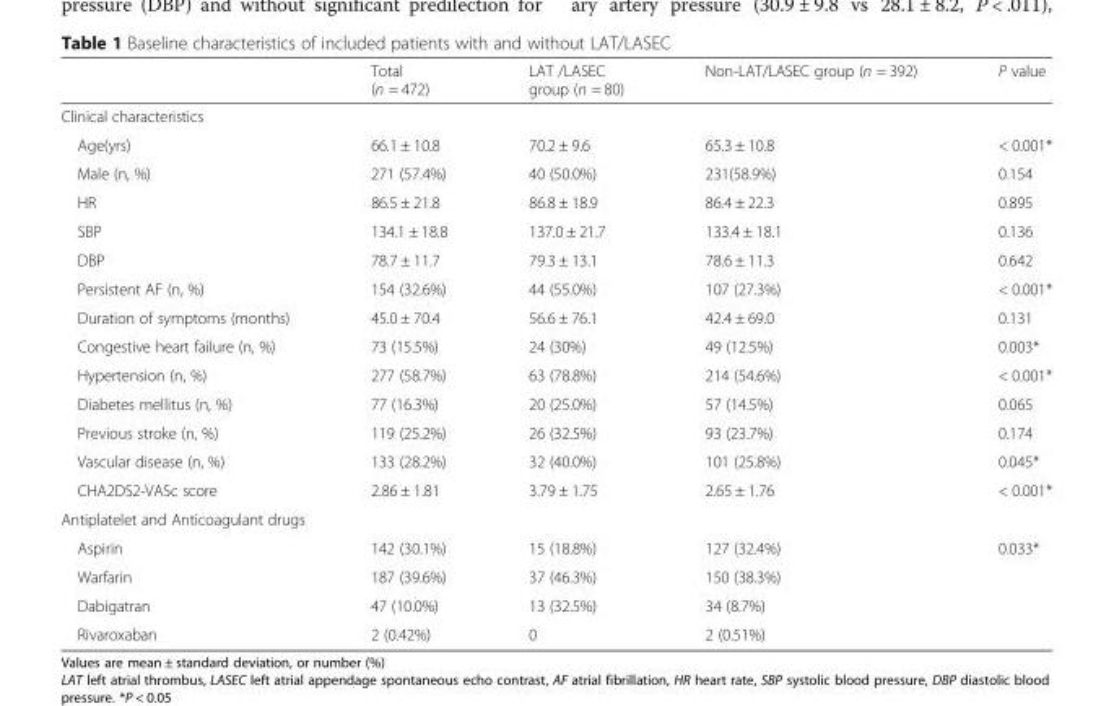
<table><thead><tr><td></td><td>Total (n = 472)</td><td>LAT /LASEC group (n = 80)</td><td>Non-LAT/LASEC group (n = 392)</td><td>P value</td></tr></thead><tbody><tr><td colspan="5">Clinical characteristics</td></tr><tr><td>Age(yrs)</td><td>66.1 ± 10.8</td><td>70.2 ± 9.6</td><td>65.3 ± 10.8</td><td>&lt; 0.001*</td></tr><tr><td>Male (n, %)</td><td>271 (57.4%)</td><td>40 (50.0%)</td><td>231(58.9%)</td><td>0.154</td></tr><tr><td>HR</td><td>86.5 ± 21.8</td><td>86.8 ± 18.9</td><td>86.4 ± 22.3</td><td>0.895</td></tr><tr><td>SBP</td><td>134.1 ± 18.8</td><td>137.0 ± 21.7</td><td>133.4 ± 18.1</td><td>0.136</td></tr><tr><td>DBP</td><td>78.7 ± 11.7</td><td>79.3 ± 13.1</td><td>78.6 ± 11.3</td><td>0.642</td></tr><tr><td>Persistent AF (n, %)</td><td>154 (32.6%)</td><td>44 (55.0%)</td><td>107 (27.3%)</td><td>&lt; 0.001*</td></tr><tr><td>Duration of symptoms (months)</td><td>45.0 ± 70.4</td><td>56.6 ± 76.1</td><td>42.4 ± 69.0</td><td>0.131</td></tr><tr><td>Congestive heart failure (n, %)</td><td>73 (15.5%)</td><td>24 (30%)</td><td>49 (12.5%)</td><td>0.003*</td></tr><tr><td>Hypertension (n, %)</td><td>277 (58.7%)</td><td>63 (78.8%)</td><td>214 (54.6%)</td><td>&lt; 0.001*</td></tr><tr><td>Diabetes mellitus (n, %)</td><td>77 (16.3%)</td><td>20 (25.0%)</td><td>57 (14.5%)</td><td>0.065</td></tr><tr><td>Previous stroke (n, %)</td><td>119 (25.2%)</td><td>26 (32.5%)</td><td>93 (23.7%)</td><td>0.174</td></tr><tr><td>Vascular disease (n, %)</td><td>133 (28.2%)</td><td>32 (40.0%)</td><td>101 (25.8%)</td><td>0.045*</td></tr><tr><td>CHA2DS2-VASc score</td><td>2.86 ± 1.81</td><td>3.79 ± 1.75</td><td>2.65 ± 1.76</td><td>&lt; 0.001*</td></tr><tr><td colspan="5">Antiplatelet and Anticoagulant drugs</td></tr><tr><td>Aspirin</td><td>142 (30.1%)</td><td>15 (18.8%)</td><td>127 (32.4%)</td><td rowspan="4">0.033*</td></tr><tr><td>Warfarin</td><td>187 (39.6%)</td><td>37 (46.3%)</td><td>150 (38.3%)</td></tr><tr><td>Dabigatran</td><td>47 (10.0%)</td><td>13 (32.5%)</td><td>34 (8.7%)</td></tr><tr><td>Rivaroxaban</td><td>2 (0.42%)</td><td>0</td><td>2 (0.51%)</td></tr></tbody></table>